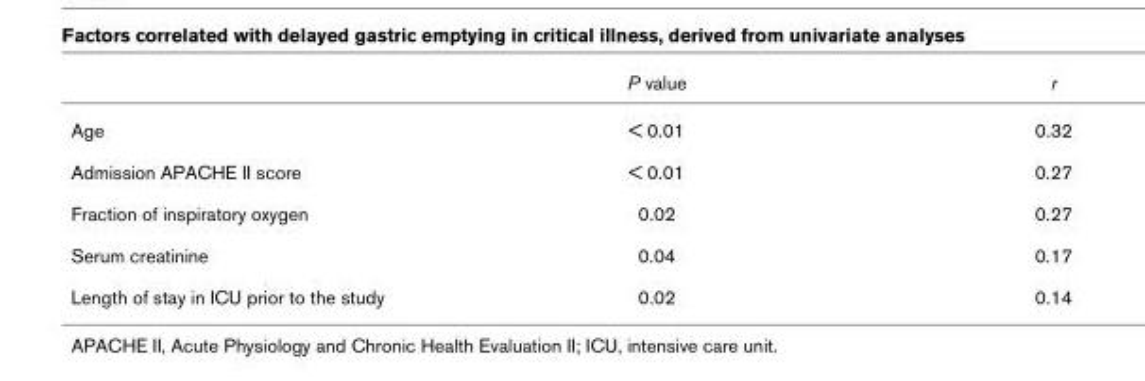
<table><thead><tr><td></td><td>P value</td><td>r</td></tr></thead><tbody><tr><td>Age</td><td>&lt; 0.01</td><td>0.32</td></tr><tr><td>Admission APACHE II score</td><td>&lt; 0.01</td><td>0.27</td></tr><tr><td>Fraction of inspiratory oxygen</td><td>0.02</td><td>0.27</td></tr><tr><td>Serum creatinine</td><td>0.04</td><td>0.17</td></tr><tr><td>Length of stay in ICU prior to the study</td><td>0.02</td><td>0.14</td></tr></tbody></table>